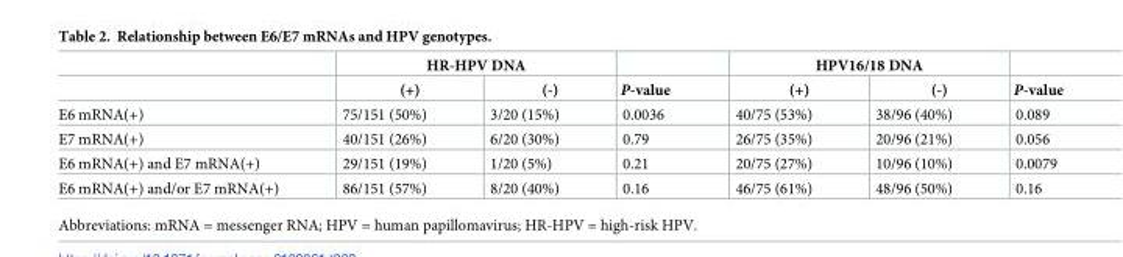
<table><thead><tr><td rowspan="2"></td><td colspan="2">HR-HPV DNA</td><td rowspan="2">P-value</td><td colspan="2">HPV16/18 DNA</td><td rowspan="2">P-value</td></tr><tr><td>(+)</td><td>(-)</td><td>(+)</td><td>(-)</td></tr></thead><tbody><tr><td>E6 mRNA(+)</td><td>75/151 (50%)</td><td>3/20 (15%)</td><td>0.0036</td><td>40/75 (53%)</td><td>38/96 (40%)</td><td>0.089</td></tr><tr><td>E7 mRNA(+)</td><td>40/151 (26%)</td><td>6/20 (30%)</td><td>0.79</td><td>26/75 (35%)</td><td>20/96 (21%)</td><td>0.056</td></tr><tr><td>E6 mRNA(+) and E7 mRNA(+)</td><td>29/151 (19%)</td><td>1/20 (5%)</td><td>0.21</td><td>20/75 (27%)</td><td>10/96 (10%)</td><td>0.0079</td></tr><tr><td>E6 mRNA(+) and/or E7 mRNA(+)</td><td>86/151 (57%)</td><td>8/20 (40%)</td><td>0.16</td><td>46/75 (61%)</td><td>48/96 (50%)</td><td>0.16</td></tr></tbody></table>